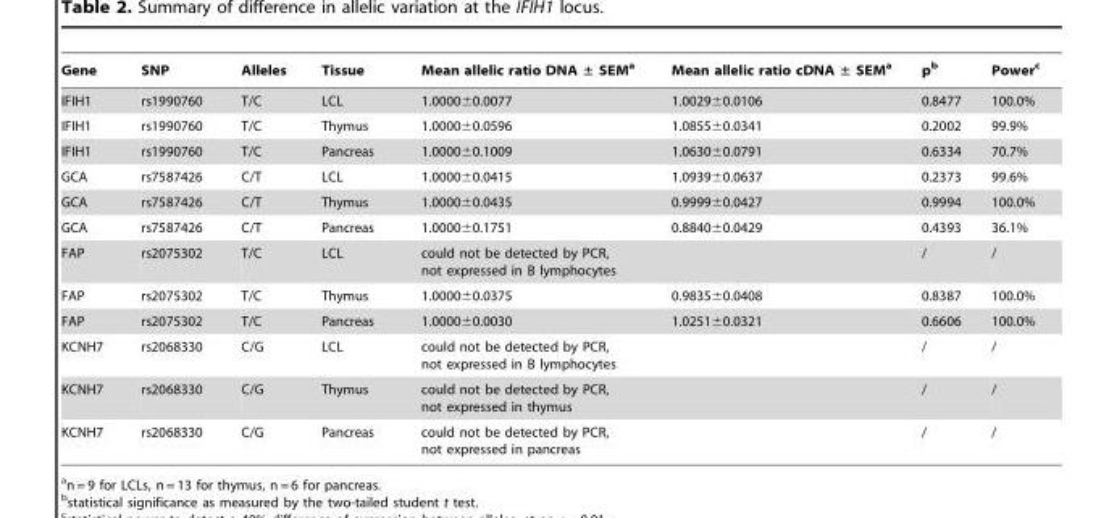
<table><thead><tr><td>Gene</td><td>SNP</td><td>Alleles</td><td>Tissue</td><td>Mean allelic ratio DNA ± SEM<sup>a</sup></td><td>Mean allelic ratio cDNA ± SEM<sup>a</sup></td><td>p<sup>b</sup></td><td>Power<sup>c</sup></td></tr></thead><tbody><tr><td>IFIH1</td><td>rs1990760</td><td>T/C</td><td>LCL</td><td>1.0000±0.0077</td><td>1.0029±0.0106</td><td>0.8477</td><td>100.0%</td></tr><tr><td>IFIH1</td><td>rs1990760</td><td>T/C</td><td>Thymus</td><td>1.0000±0.0596</td><td>1.0855±0.0341</td><td>0.2002</td><td>99.9%</td></tr><tr><td>IFIH1</td><td>rs1990760</td><td>T/C</td><td>Pancreas</td><td>1.0000±0.1009</td><td>1.0630±0.0791</td><td>0.6334</td><td>70.7%</td></tr><tr><td>GCA</td><td>rs7587426</td><td>C/T</td><td>LCL</td><td>1.0000±0.0415</td><td>1.0939±0.0637</td><td>0.2373</td><td>99.6%</td></tr><tr><td>GCA</td><td>rs7587426</td><td>C/T</td><td>Thymus</td><td>1.0000±0.0435</td><td>0.9999±0.0427</td><td>0.9994</td><td>100.0%</td></tr><tr><td>GCA</td><td>rs7587426</td><td>C/T</td><td>Pancreas</td><td>1.0000±0.1751</td><td>0.8840±0.0429</td><td>0.4393</td><td>36.1%</td></tr><tr><td>FAP</td><td>rs2075302</td><td>T/C</td><td>LCL</td><td colspan="2">could not be detected by PCR, not expressed in B lymphocytes</td><td>/</td><td>/</td></tr><tr><td>FAP</td><td>rs2075302</td><td>T/C</td><td>Thymus</td><td>1.0000±0.0375</td><td>0.9835±0.0408</td><td>0.8387</td><td>100.0%</td></tr><tr><td>FAP</td><td>rs2075302</td><td>T/C</td><td>Pancreas</td><td>1.0000±0.0030</td><td>1.0251±0.0321</td><td>0.6606</td><td>100.0%</td></tr><tr><td>KCNH7</td><td>rs2068330</td><td>C/G</td><td>LCL</td><td colspan="2">could not be detected by PCR, not expressed in B lymphocytes</td><td>/</td><td>/</td></tr><tr><td>KCNH7</td><td>rs2068330</td><td>C/G</td><td>Thymus</td><td colspan="2">could not be detected by PCR, not expressed in thymus</td><td>/</td><td>/</td></tr><tr><td>KCNH7</td><td>rs2068330</td><td>C/G</td><td>Pancreas</td><td colspan="2">could not be detected by PCR, not expressed in pancreas</td><td>/</td><td>/</td></tr></tbody></table>